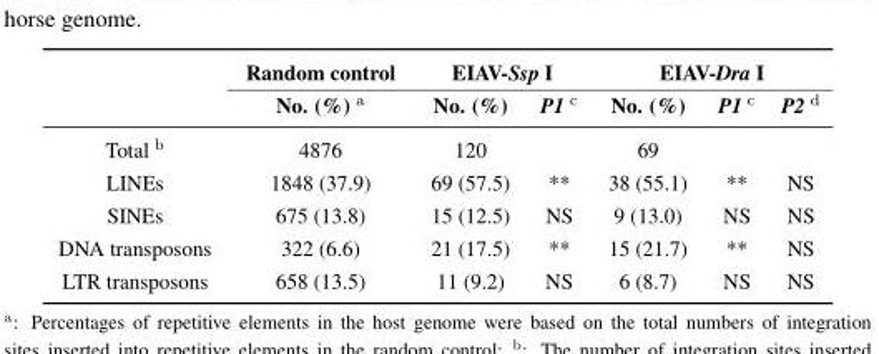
<table><thead><tr><td rowspan="2"></td><td rowspan="2">Random control No. (%) <sup>a</sup></td><td colspan="2">EIAV-Ssp I</td><td colspan="3">EIAV-Dra I</td></tr><tr><td>No. (%)</td><td>P1 <sup>c</sup></td><td>No. (%)</td><td>P1 <sup>c</sup></td><td>P2 <sup>d</sup></td></tr></thead><tbody><tr><td>Total <sup>b</sup></td><td>4876</td><td>120</td><td></td><td>69</td><td></td><td></td></tr><tr><td>LINEs</td><td>1848 (37.9)</td><td>69 (57.5)</td><td>**</td><td>38 (55.1)</td><td>**</td><td>NS</td></tr><tr><td>SINEs</td><td>675 (13.8)</td><td>15 (12.5)</td><td>NS</td><td>9 (13.0)</td><td>NS</td><td>NS</td></tr><tr><td>DNA transposons</td><td>322 (6.6)</td><td>21 (17.5)</td><td>**</td><td>15 (21.7)</td><td>**</td><td>NS</td></tr><tr><td>LTR transposons</td><td>658 (13.5)</td><td>11 (9.2)</td><td>NS</td><td>6 (8.7)</td><td>NS</td><td>NS</td></tr></tbody></table>